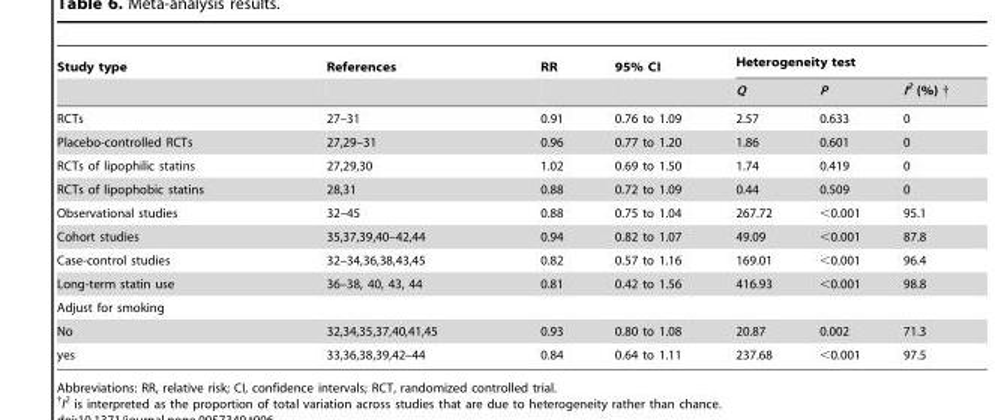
<table><thead><tr><td rowspan="2">Study type</td><td rowspan="2">References</td><td rowspan="2">RR</td><td rowspan="2">95% CI</td><td colspan="3">Heterogeneity test</td></tr><tr><td>Q</td><td>P</td><td>I2 (%)</td></tr></thead><tbody><tr><td>RCTs</td><td>27–31</td><td>0.91</td><td>0.76 to 1.09</td><td>2.57</td><td>0.633</td><td>0</td></tr><tr><td>Placebo-controlled RCTs</td><td>27,29–31</td><td>0.96</td><td>0.77 to 1.20</td><td>1.86</td><td>0.601</td><td>0</td></tr><tr><td>RCTs of lipophilic statins</td><td>27,29,30</td><td>1.02</td><td>0.69 to 1.50</td><td>1.74</td><td>0.419</td><td>0</td></tr><tr><td>RCTs of lipophobic statins</td><td>28,31</td><td>0.88</td><td>0.72 to 1.09</td><td>0.44</td><td>0.509</td><td>0</td></tr><tr><td>Observational studies</td><td>32–45</td><td>0.88</td><td>0.75 to 1.04</td><td>267.72</td><td>&lt;0.001</td><td>95.1</td></tr><tr><td>Cohort studies</td><td>35,37,39,40–42,44</td><td>0.94</td><td>0.82 to 1.07</td><td>49.09</td><td>&lt;0.001</td><td>87.8</td></tr><tr><td>Case-control studies</td><td>32–34,36,38,43,45</td><td>0.82</td><td>0.57 to 1.16</td><td>169.01</td><td>&lt;0.001</td><td>96.4</td></tr><tr><td>Long-term statin use</td><td>36–38, 40, 43, 44</td><td>0.81</td><td>0.42 to 1.56</td><td>416.93</td><td>&lt;0.001</td><td>98.8</td></tr><tr><td colspan="7">Adjust for smoking</td></tr><tr><td>No</td><td>32,34,35,37,40,41,45</td><td>0.93</td><td>0.80 to 1.08</td><td>20.87</td><td>0.002</td><td>71.3</td></tr><tr><td>yes</td><td>33,36,38,39,42–44</td><td>0.84</td><td>0.64 to 1.11</td><td>237.68</td><td>&lt;0.001</td><td>97.5</td></tr></tbody></table>